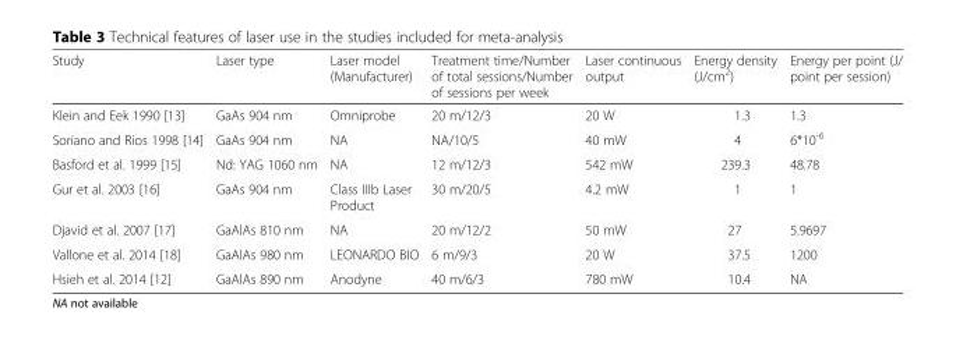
<table><thead><tr><td>Study</td><td>Laser type</td><td>Laser model (Manufacturer)</td><td>Treatment time/Number of total sessions/Number of sessions per week</td><td>Laser continuous output</td><td>Energy density (J/cm<sup>2</sup>)</td><td>Energy per point (J/ point per session)</td></tr></thead><tbody><tr><td>Klein and Eek 1990 [13]</td><td>GaAs 904 nm</td><td>Omniprobe</td><td>20 m/12/3</td><td>20 W</td><td>1.3</td><td>1.3</td></tr><tr><td>Soriano and Rios 1998 [14]</td><td>GaAs 904 nm</td><td>NA</td><td>NA/10/5</td><td>40 mW</td><td>4</td><td>6*10<sup>-6</sup></td></tr><tr><td>Basford et al. 1999 [15]</td><td>Nd: YAG 1060 nm</td><td>NA</td><td>12 m/12/3</td><td>542 mW</td><td>239.3</td><td>48.78</td></tr><tr><td>Gur et al. 2003 [16]</td><td>GaAs 904 nm</td><td>Class IIIb Laser Product</td><td>30 m/20/5</td><td>4.2 mW</td><td>1</td><td>1</td></tr><tr><td>Djavid et al. 2007 [17]</td><td>GaAlAs 810 nm</td><td>NA</td><td>20 m/12/2</td><td>50 mW</td><td>27</td><td>5.9697</td></tr><tr><td>Vallone et al. 2014 [18]</td><td>GaAlAs 980 nm</td><td>LEONARDO BIO</td><td>6 m/9/3</td><td>20 W</td><td>37.5</td><td>1200</td></tr><tr><td>Hsieh et al. 2014 [12]</td><td>GaAlAs 890 nm</td><td>Anodyne</td><td>40 m/6/3</td><td>780 mW</td><td>10.4</td><td>NA</td></tr></tbody></table>